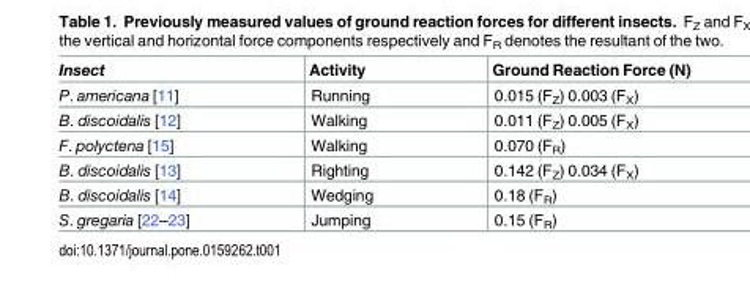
<table><thead><tr><td>Insect</td><td>Activity</td><td>Ground Reaction Force (N)</td></tr></thead><tbody><tr><td>P. americana [11]</td><td>Running</td><td>0.015 (F<sub>Z</sub>) 0.003 (F<sub>X</sub>)</td></tr><tr><td>B. discoidalis [12]</td><td>Walking</td><td>0.011 (F<sub>Z</sub>) 0.005 (F<sub>X</sub>)</td></tr><tr><td>F. polyctena [15]</td><td>Walking</td><td>0.070 (F<sub>R</sub>)</td></tr><tr><td>B. discoidalis [13]</td><td>Righting</td><td>0.142 (F<sub>Z</sub>) 0.034 (F<sub>X</sub>)</td></tr><tr><td>B. discoidalis [14]</td><td>Wedging</td><td>0.18 (F<sub>R</sub>)</td></tr><tr><td>S. gregaria [22–23]</td><td>Jumping</td><td>0.15 (F<sub>R</sub>)</td></tr></tbody></table>